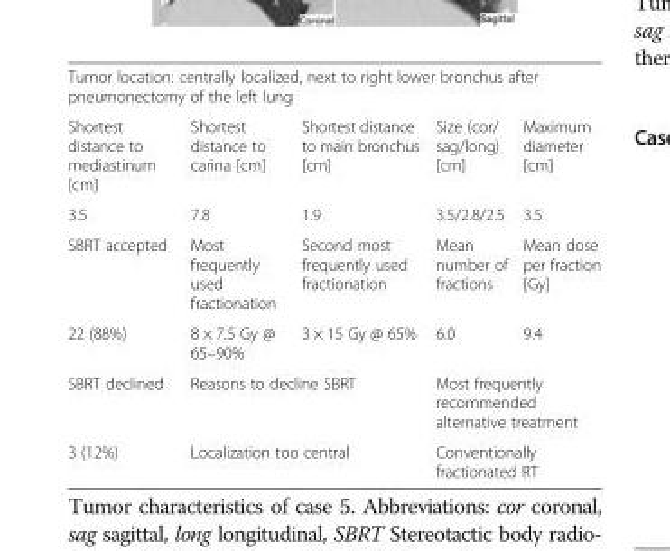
<table><tbody><tr><td colspan="5">Tumor location: centrally localized, next to right lower bronchus after pneumonectomy of the left lung</td></tr><tr><td>Shortest distance to mediastinum [cm]</td><td>Shortest distance to carina [cm]</td><td>Shortest distance to main bronchus [cm]</td><td>Size (cor/ sag/long) [cm]</td><td>Maximum diameter [cm]</td></tr><tr><td>3.5</td><td>7.8</td><td>1.9</td><td>3.5/2.8/2.5</td><td>3.5</td></tr><tr><td>SBRT accepted</td><td>Most frequently used fractionation</td><td>Second most frequently used fractionation</td><td>Mean number of fractions</td><td>Mean dose per fraction [Gy]</td></tr><tr><td>22 (88%)</td><td>8 × 7.5 Gy @ 65–90%</td><td>3 × 15 Gy @ 65%</td><td>6.0</td><td>9.4</td></tr><tr><td>SBRT declined</td><td colspan="2">Reasons to decline SBRT</td><td colspan="2">Most frequently recommended alternative treatment</td></tr><tr><td>3 (12%)</td><td colspan="2">Localization too central</td><td colspan="2">Conventionally fractionated RT</td></tr></tbody></table>